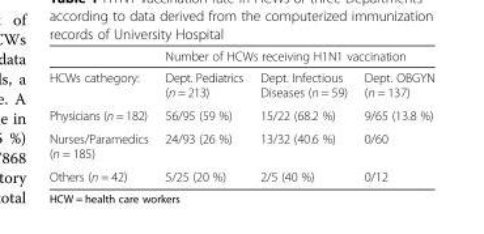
<table><thead><tr><td rowspan="2">HCWs cathegory:</td><td colspan="3">Number of HCWs receiving H1N1 vaccination</td></tr><tr><td>Dept. Pediatrics (n = 213)</td><td>Dept. Infectious Diseases (n = 59)</td><td>Dept. OBGYN (n = 137)</td></tr></thead><tbody><tr><td>Physicians (n = 182)</td><td>56/95 (59 %)</td><td>15/22 (68.2 %)</td><td>9/65 (13.8 %)</td></tr><tr><td>Nurses/Paramedics (n = 185)</td><td>24/93 (26 %)</td><td>13/32 (40.6 %)</td><td>0/60</td></tr><tr><td>Others (n = 42)</td><td>5/25 (20 %)</td><td>2/5 (40 %)</td><td>0/12</td></tr></tbody></table>